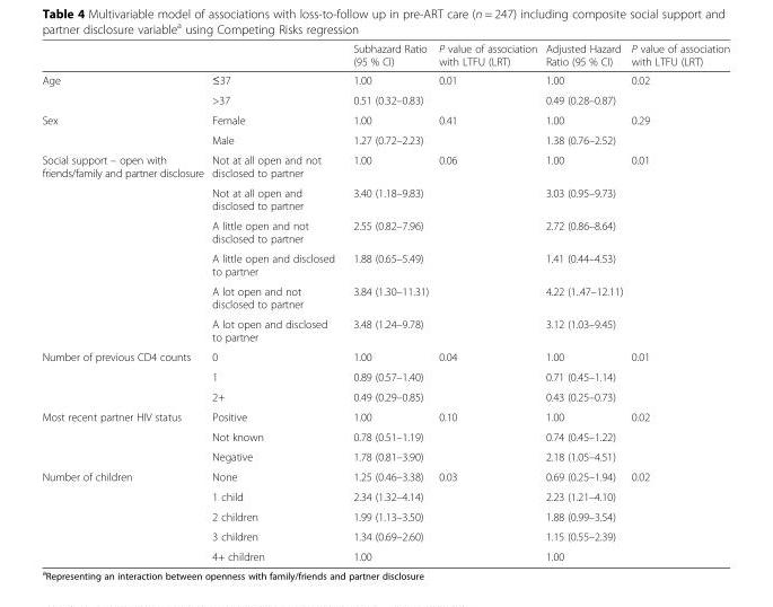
<table><thead><tr><td></td><td></td><td>Subhazard Ratio (95 % CI)</td><td>P value of association with LTFU (LRT)</td><td>Adjusted Hazard Ratio (95 % CI)</td><td>P value of association with LTFU (LRT)</td></tr></thead><tbody><tr><td rowspan="2">Age</td><td>≤37</td><td>1.00</td><td rowspan="2">0.01</td><td>1.00</td><td rowspan="2">0.02</td></tr><tr><td>&gt;37</td><td>0.51 (0.32–0.83)</td><td>0.49 (0.28–0.87)</td></tr><tr><td rowspan="2">Sex</td><td>Female</td><td>1.00</td><td rowspan="2">0.41</td><td>1.00</td><td rowspan="2">0.29</td></tr><tr><td>Male</td><td>1.27 (0.72–2.23)</td><td>1.38 (0.76–2.52)</td></tr><tr><td rowspan="6">Social support – open with friends/family and partner disclosure</td><td>Not at all open and not disclosed to partner</td><td>1.00</td><td rowspan="6">0.06</td><td>1.00</td><td rowspan="6">0.01</td></tr><tr><td>Not at all open and disclosed to partner</td><td>3.40 (1.18–9.83)</td><td>3.03 (0.95–9.73)</td></tr><tr><td>A little open and not disclosed to partner</td><td>2.55 (0.82–7.96)</td><td>2.72 (0.86–8.64)</td></tr><tr><td>A little open and disclosed to partner</td><td>1.88 (0.65–5.49)</td><td>1.41 (0.44–4.53)</td></tr><tr><td>A lot open and not disclosed to partner</td><td>3.84 (1.30–11.31)</td><td>4.22 (1..47–12.11)</td></tr><tr><td>A lot open and disclosed to partner</td><td>3.48 (1.24–9.78)</td><td>3.12 (1.03–9.45)</td></tr><tr><td rowspan="3">Number of previous CD4 counts</td><td>0</td><td>1.00</td><td rowspan="3">0.04</td><td>1.00</td><td rowspan="3">0.01</td></tr><tr><td>1</td><td>0.89 (0.57–1.40)</td><td>0.71 (0.45–1.14)</td></tr><tr><td>2+</td><td>0.49 (0.29–0.85)</td><td>0.43 (0.25–0.73)</td></tr><tr><td rowspan="3">Most recent partner HIV status</td><td>Positive</td><td>1.00</td><td rowspan="3">0.10</td><td>1.00</td><td rowspan="3">0.02</td></tr><tr><td>Not known</td><td>0.78 (0.51–1.19)</td><td>0.74 (0.45–1.22)</td></tr><tr><td>Negative</td><td>1.78 (0.81–3.90)</td><td>2.18 (1.05–4.51)</td></tr><tr><td rowspan="5">Number of children</td><td>None</td><td>1.25 (0.46–3.38)</td><td rowspan="5">0.03</td><td>0.69 (0.25–1.94)</td><td rowspan="5">0.02</td></tr><tr><td>1 child</td><td>2.34 (1.32–4.14)</td><td>2.23 (1.21–4.10)</td></tr><tr><td>2 children</td><td>1.99 (1.13–3.50)</td><td>1.88 (0.99–3.54)</td></tr><tr><td>3 children</td><td>1.34 (0.69–2.60)</td><td>1.15 (0.55–2.39)</td></tr><tr><td>4+ children</td><td>1.00</td><td>1.00</td></tr></tbody></table>